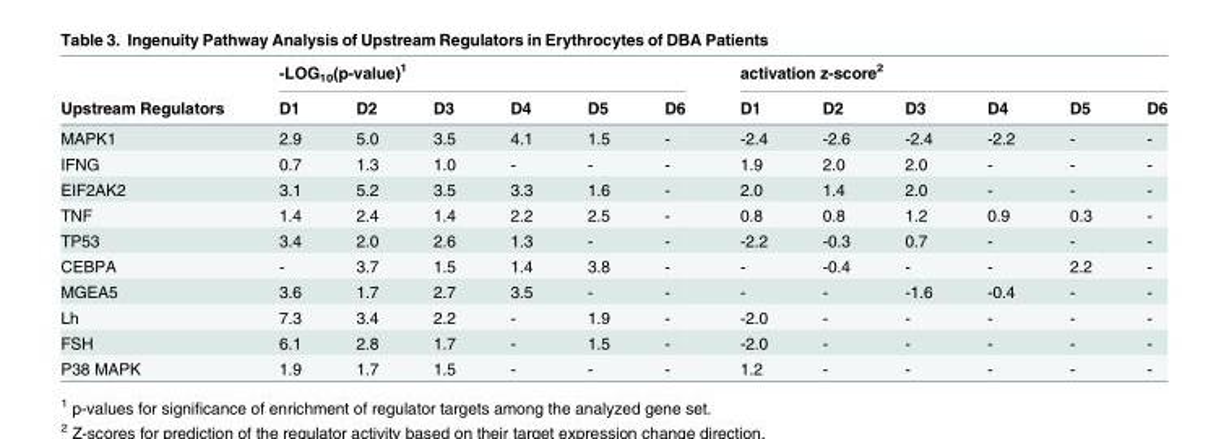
<table><thead><tr><td rowspan="2">Upstream Regulators</td><td colspan="6">-LOG<sub>10</sub>(p-value)<sup>1</sup></td><td colspan="6">activation z-score<sup>2</sup></td></tr><tr><td>D1</td><td>D2</td><td>D3</td><td>D4</td><td>D5</td><td>D6</td><td>D1</td><td>D2</td><td>D3</td><td>D4</td><td>D5</td><td>D6</td></tr></thead><tbody><tr><td>MAPK1</td><td>2.9</td><td>5.0</td><td>3.5</td><td>4.1</td><td>1.5</td><td>-</td><td>-2.4</td><td>-2.6</td><td>-2.4</td><td>-2.2</td><td>-</td><td>-</td></tr><tr><td>IFNG</td><td>0.7</td><td>1.3</td><td>1.0</td><td>-</td><td>-</td><td>-</td><td>1.9</td><td>2.0</td><td>2.0</td><td>-</td><td>-</td><td>-</td></tr><tr><td>EIF2AK2</td><td>3.1</td><td>5.2</td><td>3.5</td><td>3.3</td><td>1.6</td><td>-</td><td>2.0</td><td>1.4</td><td>2.0</td><td>-</td><td>-</td><td>-</td></tr><tr><td>TNF</td><td>1.4</td><td>2.4</td><td>1.4</td><td>2.2</td><td>2.5</td><td>-</td><td>0.8</td><td>0.8</td><td>1.2</td><td>0.9</td><td>0.3</td><td>-</td></tr><tr><td>TP53</td><td>3.4</td><td>2.0</td><td>2.6</td><td>1.3</td><td>-</td><td>-</td><td>-2.2</td><td>-0.3</td><td>0.7</td><td>-</td><td>-</td><td>-</td></tr><tr><td>CEBPA</td><td>-</td><td>3.7</td><td>1.5</td><td>1.4</td><td>3.8</td><td>-</td><td>-</td><td>-0.4</td><td>-</td><td>-</td><td>2.2</td><td>-</td></tr><tr><td>MGEA5</td><td>3.6</td><td>1.7</td><td>2.7</td><td>3.5</td><td>-</td><td>-</td><td>-</td><td>-</td><td>-1.6</td><td>-0.4</td><td>-</td><td>-</td></tr><tr><td>Lh</td><td>7.3</td><td>3.4</td><td>2.2</td><td>-</td><td>1.9</td><td>-</td><td>-2.0</td><td>-</td><td>-</td><td>-</td><td>-</td><td>-</td></tr><tr><td>FSH</td><td>6.1</td><td>2.8</td><td>1.7</td><td>-</td><td>1.5</td><td>-</td><td>-2.0</td><td>-</td><td>-</td><td>-</td><td>-</td><td>-</td></tr><tr><td>P38 MAPK</td><td>1.9</td><td>1.7</td><td>1.5</td><td>-</td><td>-</td><td>-</td><td>1.2</td><td>-</td><td>-</td><td>-</td><td>-</td><td>-</td></tr></tbody></table>